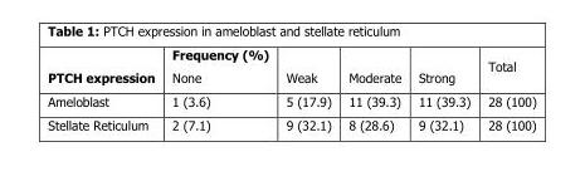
<table><thead><tr><td>PTCH expression</td><td>Frequency (%) None</td><td>Weak</td><td>Moderate</td><td>Strong</td><td>Total</td></tr></thead><tbody><tr><td>Ameloblast</td><td>1 (3.6)</td><td>5 (17.9)</td><td>11 (39.3)</td><td>11 (39.3)</td><td>28 (100)</td></tr><tr><td>Stellate Reticulum</td><td>2 (7.1)</td><td>9 (32.1)</td><td>8 (28.6)</td><td>9 (32.1)</td><td>28 (100)</td></tr></tbody></table>